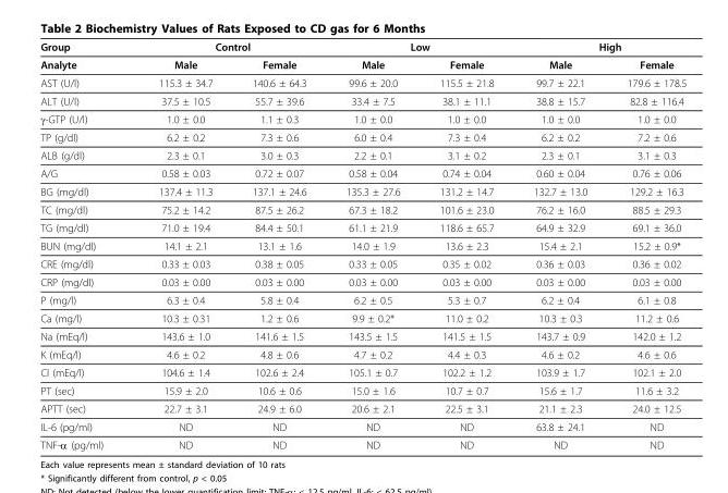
<table><thead><tr><td rowspan="2">Group Analyte</td><td colspan="2">Control</td><td colspan="2">Low</td><td colspan="2">High</td></tr><tr><td>Male</td><td>Female</td><td>Male</td><td>Female</td><td>Male</td><td>Female</td></tr></thead><tbody><tr><td>AST (U/l)</td><td>115.3 ± 34.7</td><td>140.6 ± 64.3</td><td>99.6 ± 20.0</td><td>115.5 ± 21.8</td><td>99.7 ± 22.1</td><td>179.6 ± 178.5</td></tr><tr><td>ALT (U/l)</td><td>37.5 ± 10.5</td><td>55.7 ± 39.6</td><td>33.4 ± 7.5</td><td>38.1 ± 11.1</td><td>38.8 ± 15.7</td><td>82.8 ± 116.4</td></tr><tr><td>γ-GTP (U/l)</td><td>1.0 ± 0.0</td><td>1.1 ± 0.3</td><td>1.0 ± 0.0</td><td>1.0 ± 0.0</td><td>1.0 ± 0.0</td><td>1.0 ± 0.0</td></tr><tr><td>TP (g/dl)</td><td>6.2 ± 0.2</td><td>7.3 ± 0.6</td><td>6.0 ± 0.4</td><td>7.3 ± 0.4</td><td>6.2 ± 0.2</td><td>7.2 ± 0.6</td></tr><tr><td>ALB (g/dl)</td><td>2.3 ± 0.1</td><td>3.0 ± 0.3</td><td>2.2 ± 0.1</td><td>3.1 ± 0.2</td><td>2.3 ± 0.1</td><td>3.1 ± 0.3</td></tr><tr><td>A/G</td><td>0.58 ± 0.03</td><td>0.72 ± 0.07</td><td>0.58 ± 0.04</td><td>0.74 ± 0.04</td><td>0.60 ± 0.04</td><td>0.76 ± 0.06</td></tr><tr><td>BG (mg/dl)</td><td>137.4 ± 11.3</td><td>137.1 ± 24.6</td><td>135.3 ± 27.6</td><td>131.2 ± 14.7</td><td>132.7 ± 13.0</td><td>129.2 ± 16.3</td></tr><tr><td>TC (mg/dl)</td><td>75.2 ± 14.2</td><td>87.5 ± 26.2</td><td>67.3 ± 18.2</td><td>101.6 ± 23.0</td><td>76.2 ± 16.0</td><td>88.5 ± 29.3</td></tr><tr><td>TG (mg/dl)</td><td>71.0 ± 19.4</td><td>84.4 ± 50.1</td><td>61.1 ± 21.9</td><td>118.6 ± 65.7</td><td>64.9 ± 32.9</td><td>69.1 ± 36.0</td></tr><tr><td>BUN (mg/dl)</td><td>14.1 ± 2.1</td><td>13.1 ± 1.6</td><td>14.0 ± 1.9</td><td>13.6 ± 2.3</td><td>15.4 ± 2.1</td><td>15.2 ± 0.9*</td></tr><tr><td>CRE (mg/dl)</td><td>0.33 ± 0.03</td><td>0.38 ± 0.05</td><td>0.33 ± 0.05</td><td>0.35 ± 0.02</td><td>0.36 ± 0.03</td><td>0.36 ± 0.02</td></tr><tr><td>CRP (mg/dl)</td><td>0.03 ± 0.00</td><td>0.03 ± 0.00</td><td>0.03 ± 0.00</td><td>0.03 ± 0.00</td><td>0.03 ± 0.00</td><td>0.03 ± 0.00</td></tr><tr><td>P (mg/l)</td><td>6.3 ± 0.4</td><td>5.8 ± 0.4</td><td>6.2 ± 0.5</td><td>5.3 ± 0.7</td><td>6.2 ± 0.4</td><td>6.1 ± 0.8</td></tr><tr><td>Ca (mg/l)</td><td>10.3 ± 0.31</td><td>1.2 ± 0.6</td><td>9.9 ± 0.2*</td><td>11.0 ± 0.2</td><td>10.3 ± 0.3</td><td>11.2 ± 0.6</td></tr><tr><td>Na (mEq/l)</td><td>143.6 ± 1.0</td><td>141.6 ± 1.5</td><td>143.5 ± 1.5</td><td>141.5 ± 1.5</td><td>143.7 ± 0.9</td><td>142.0 ± 1.2</td></tr><tr><td>K (mEq/l)</td><td>4.6 ± 0.2</td><td>4.8 ± 0.6</td><td>4.7 ± 0.2</td><td>4.4 ± 0.3</td><td>4.6 ± 0.2</td><td>4.6 ± 0.6</td></tr><tr><td>Cl (mEq/l)</td><td>104.6 ± 1.4</td><td>102.6 ± 2.4</td><td>105.1 ± 0.7</td><td>102.2 ± 1.2</td><td>103.9 ± 1.7</td><td>102.1 ± 2.0</td></tr><tr><td>PT (sec)</td><td>15.9 ± 2.0</td><td>10.6 ± 0.6</td><td>15.0 ± 1.6</td><td>10.7 ± 0.7</td><td>15.6 ± 1.7</td><td>11.6 ± 3.2</td></tr><tr><td>APTT (sec)</td><td>22.7 ± 3.1</td><td>24.9 ± 6.0</td><td>20.6 ± 2.1</td><td>22.5 ± 3.1</td><td>21.1 ± 2.3</td><td>24.0 ± 12.5</td></tr><tr><td>IL-6 (pg/ml)</td><td>ND</td><td>ND</td><td>ND</td><td>ND</td><td>63.8 ± 24.1</td><td>ND</td></tr><tr><td>TNF-α (pg/ml)</td><td>ND</td><td>ND</td><td>ND</td><td>ND</td><td>ND</td><td>ND</td></tr></tbody></table>